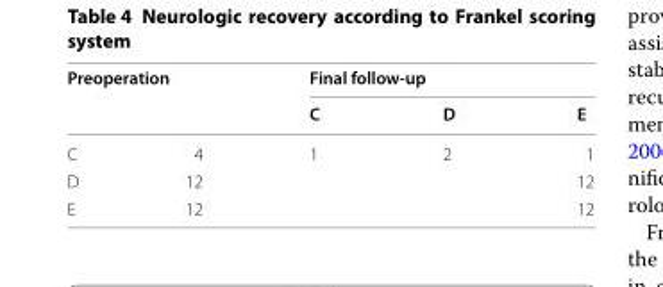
<table><thead><tr><td rowspan="2" colspan="2">Preoperation</td><td colspan="3">Final follow‑up</td></tr><tr><td rowspan="2">C 1</td><td rowspan="2">D 2</td><td rowspan="2">E 1</td></tr><tr><td>C</td><td>4</td></tr></thead><tbody><tr><td>D</td><td>12</td><td></td><td></td><td>12</td></tr><tr><td>E</td><td>12</td><td></td><td></td><td>12</td></tr></tbody></table>